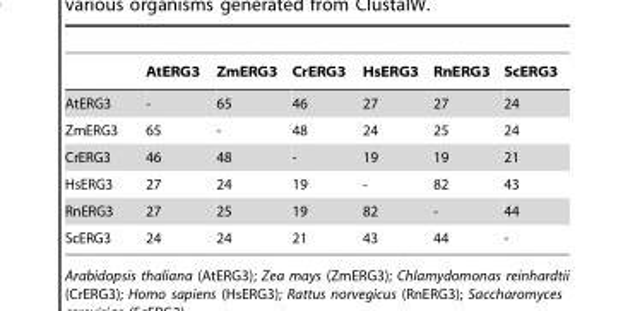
<table><thead><tr><td></td><td>AtERG3</td><td>ZmERG3</td><td>CrERG3</td><td>HsERG3</td><td>RnERG3</td><td>ScERG3</td></tr></thead><tbody><tr><td>AtERG3</td><td>-</td><td>65</td><td>46</td><td>27</td><td>27</td><td>24</td></tr><tr><td>ZmERG3</td><td>65</td><td>-</td><td>48</td><td>24</td><td>25</td><td>24</td></tr><tr><td>CrERG3</td><td>46</td><td>48</td><td>-</td><td>19</td><td>19</td><td>21</td></tr><tr><td>HsERG3</td><td>27</td><td>24</td><td>19</td><td>-</td><td>82</td><td>43</td></tr><tr><td>RnERG3</td><td>27</td><td>25</td><td>19</td><td>82</td><td>-</td><td>44</td></tr><tr><td>ScERG3</td><td>24</td><td>24</td><td>21</td><td>43</td><td>44</td><td>-</td></tr></tbody></table>